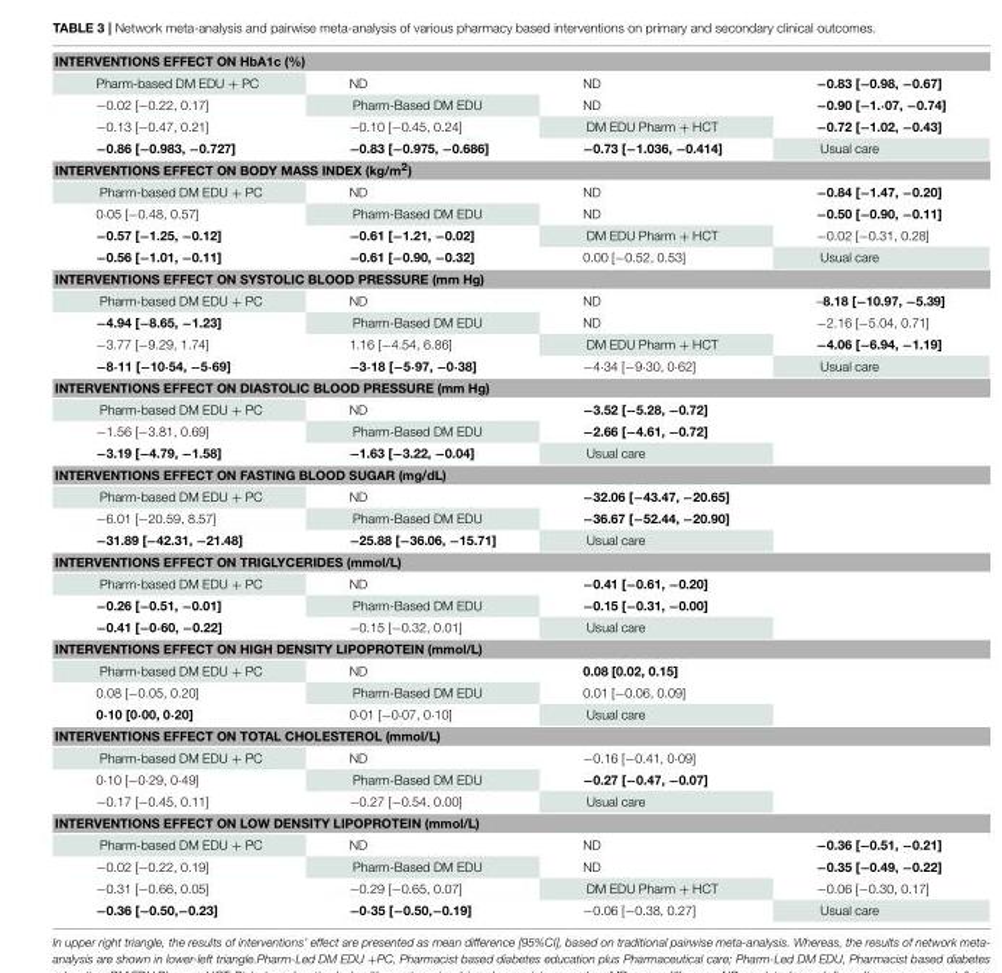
<table><tbody><tr><td colspan="4">INTERVENTIONS EFFECT ON HbA1c (%)</td></tr><tr><td>Pharm-based DM EDU + PC</td><td>ND</td><td>ND</td><td>−0.83 [−0.98, −0.67]</td></tr><tr><td>−0.02 [−0.22, 0.17]</td><td>Pharm-Based DM EDU</td><td>ND</td><td>−0.90 [−1.·07, −0.74]</td></tr><tr><td>−0.13 [−0.47, 0.21]</td><td>−0.10 [−0.45, 0.24]</td><td>DM EDU Pharm + HCT</td><td>−0.72 [−1.02, −0.43]</td></tr><tr><td>−0.86 [−0.983, −0.727]</td><td>−0.83 [−0.975, −0.686]</td><td>−0.73 [−1.036, −0.414]</td><td>Usual care</td></tr><tr><td colspan="4">INTERVENTIONS EFFECT ON BODY MASS INDEX (kg/m<sup>2</sup>)</td></tr><tr><td>Pharm-based DM EDU + PC</td><td>ND</td><td>ND</td><td>−0.84 [−1.47, −0.20]</td></tr><tr><td>0·05 [−0.48, 0.57]</td><td>Pharm-Based DM EDU</td><td>ND</td><td>−0.50 [−0.90, −0.11]</td></tr><tr><td>−0.57 [−1.25, −0.12]</td><td>−0.61 [−1.21, −0.02]</td><td>DM EDU Pharm + HCT</td><td>−0.02 [−0.31, 0.28]</td></tr><tr><td>−0.56 [−1.01, −0.11]</td><td>−0.61 [−0.90, −0.32]</td><td>0.00 [−0.52, 0.53]</td><td>Usual care</td></tr><tr><td colspan="4">INTERVENTIONS EFFECT ON SYSTOLIC BLOOD PRESSURE (mm Hg)</td></tr><tr><td>Pharm-based DM EDU + PC</td><td>ND</td><td>ND</td><td>–8.18 [−10.97, −5.39]</td></tr><tr><td>−4.94 [−8.65, −1.23]</td><td>Pharm-Based DM EDU</td><td>ND</td><td>−2.16 [−5.04, 0.71]</td></tr><tr><td>−3.77 [−9.29, 1.74]</td><td>1.16 [−4.54, 6.86]</td><td>DM EDU Pharm + HCT</td><td>−4.06 [−6.94, −1.19]</td></tr><tr><td>−8·11 [−10·54, −5·69]</td><td>−3·18 [−5·97, −0·38]</td><td>−4·34 [−9·30, 0·62]</td><td>Usual care</td></tr><tr><td colspan="4">INTERVENTIONS EFFECT ON DIASTOLIC BLOOD PRESSURE (mm Hg)</td></tr><tr><td>Pharm-based DM EDU + PC</td><td>ND</td><td>−3.52 [−5.28, −0.72]</td><td></td></tr><tr><td>−1.56 [−3.81, 0.69]</td><td>Pharm-Based DM EDU</td><td>−2.66 [−4.61, −0.72]</td><td></td></tr><tr><td>−3.19 [−4.79, −1.58]</td><td>−1.63 [−3.22, −0.04]</td><td>Usual care</td><td></td></tr><tr><td colspan="4">INTERVENTIONS EFFECT ON FASTING BLOOD SUGAR (mg/dL)</td></tr><tr><td>Pharm-based DM EDU + PC</td><td>ND</td><td>−32.06 [−43.47, −20.65]</td><td></td></tr><tr><td>−6.01 [−20.59, 8.57]</td><td>Pharm-Based DM EDU</td><td>−36.67 [−52.44, −20.90]</td><td></td></tr><tr><td>−31.89 [−42.31, −21.48]</td><td>−25.88 [−36.06, −15.71]</td><td>Usual care</td><td></td></tr><tr><td colspan="4">INTERVENTIONS EFFECT ON TRIGLYCERIDES (mmol/L)</td></tr><tr><td>Pharm-based DM EDU + PC</td><td>ND</td><td>−0.41 [−0.61, −0.20]</td><td></td></tr><tr><td>−0.26 [−0.51, −0.01]</td><td>Pharm-Based DM EDU</td><td>−0.15 [−0.31, −0.00]</td><td></td></tr><tr><td>−0.41 [−0·60, −0.22]</td><td>−0.15 [−0.32, 0.01]</td><td>Usual care</td><td></td></tr><tr><td colspan="4">INTERVENTIONS EFFECT ON HIGH DENSITY LIPOPROTEIN (mmol/L)</td></tr><tr><td>Pharm-based DM EDU + PC</td><td>ND</td><td>0.08 [0.02, 0.15]</td><td></td></tr><tr><td>0.08 [−0.05, 0.20]</td><td>Pharm-Based DM EDU</td><td>0.01 [−0.06, 0.09]</td><td></td></tr><tr><td>0·10 [0·00, 0·20]</td><td>0·01 [−0·07, 0·10]</td><td>Usual care</td><td></td></tr><tr><td colspan="4">INTERVENTIONS EFFECT ON TOTAL CHOLESTEROL (mmol/L)</td></tr><tr><td>Pharm-based DM EDU + PC</td><td>ND</td><td>−0.16 [−0.41, 0·09]</td><td></td></tr><tr><td>0·10 [−0·29, 0·49]</td><td>Pharm-Based DM EDU</td><td>−0.27 [−0.47, −0.07]</td><td></td></tr><tr><td>−0.17 [−0.45, 0.11]</td><td>−0.27 [−0.54, 0.00]</td><td>Usual care</td><td></td></tr><tr><td colspan="4">INTERVENTIONS EFFECT ON LOW DENSITY LIPOPROTEIN (mmol/L)</td></tr><tr><td>Pharm-based DM EDU + PC</td><td>ND</td><td>ND</td><td>−0.36 [−0.51, −0.21]</td></tr><tr><td>−0.02 [−0.22, 0.19]</td><td>Pharm-Based DM EDU</td><td>ND</td><td>−0.35 [−0.49, −0.22]</td></tr><tr><td>−0.31 [−0.66, 0.05]</td><td>−0.29 [−0.65, 0.07]</td><td>DM EDU Pharm + HCT</td><td>−0.06 [−0.30, 0.17]</td></tr><tr><td>−0.36 [−0.50,−0.23]</td><td>−0·35 [−0.50,−0.19]</td><td>−0.06 [−0.38, 0.27]</td><td>Usual care</td></tr></tbody></table>